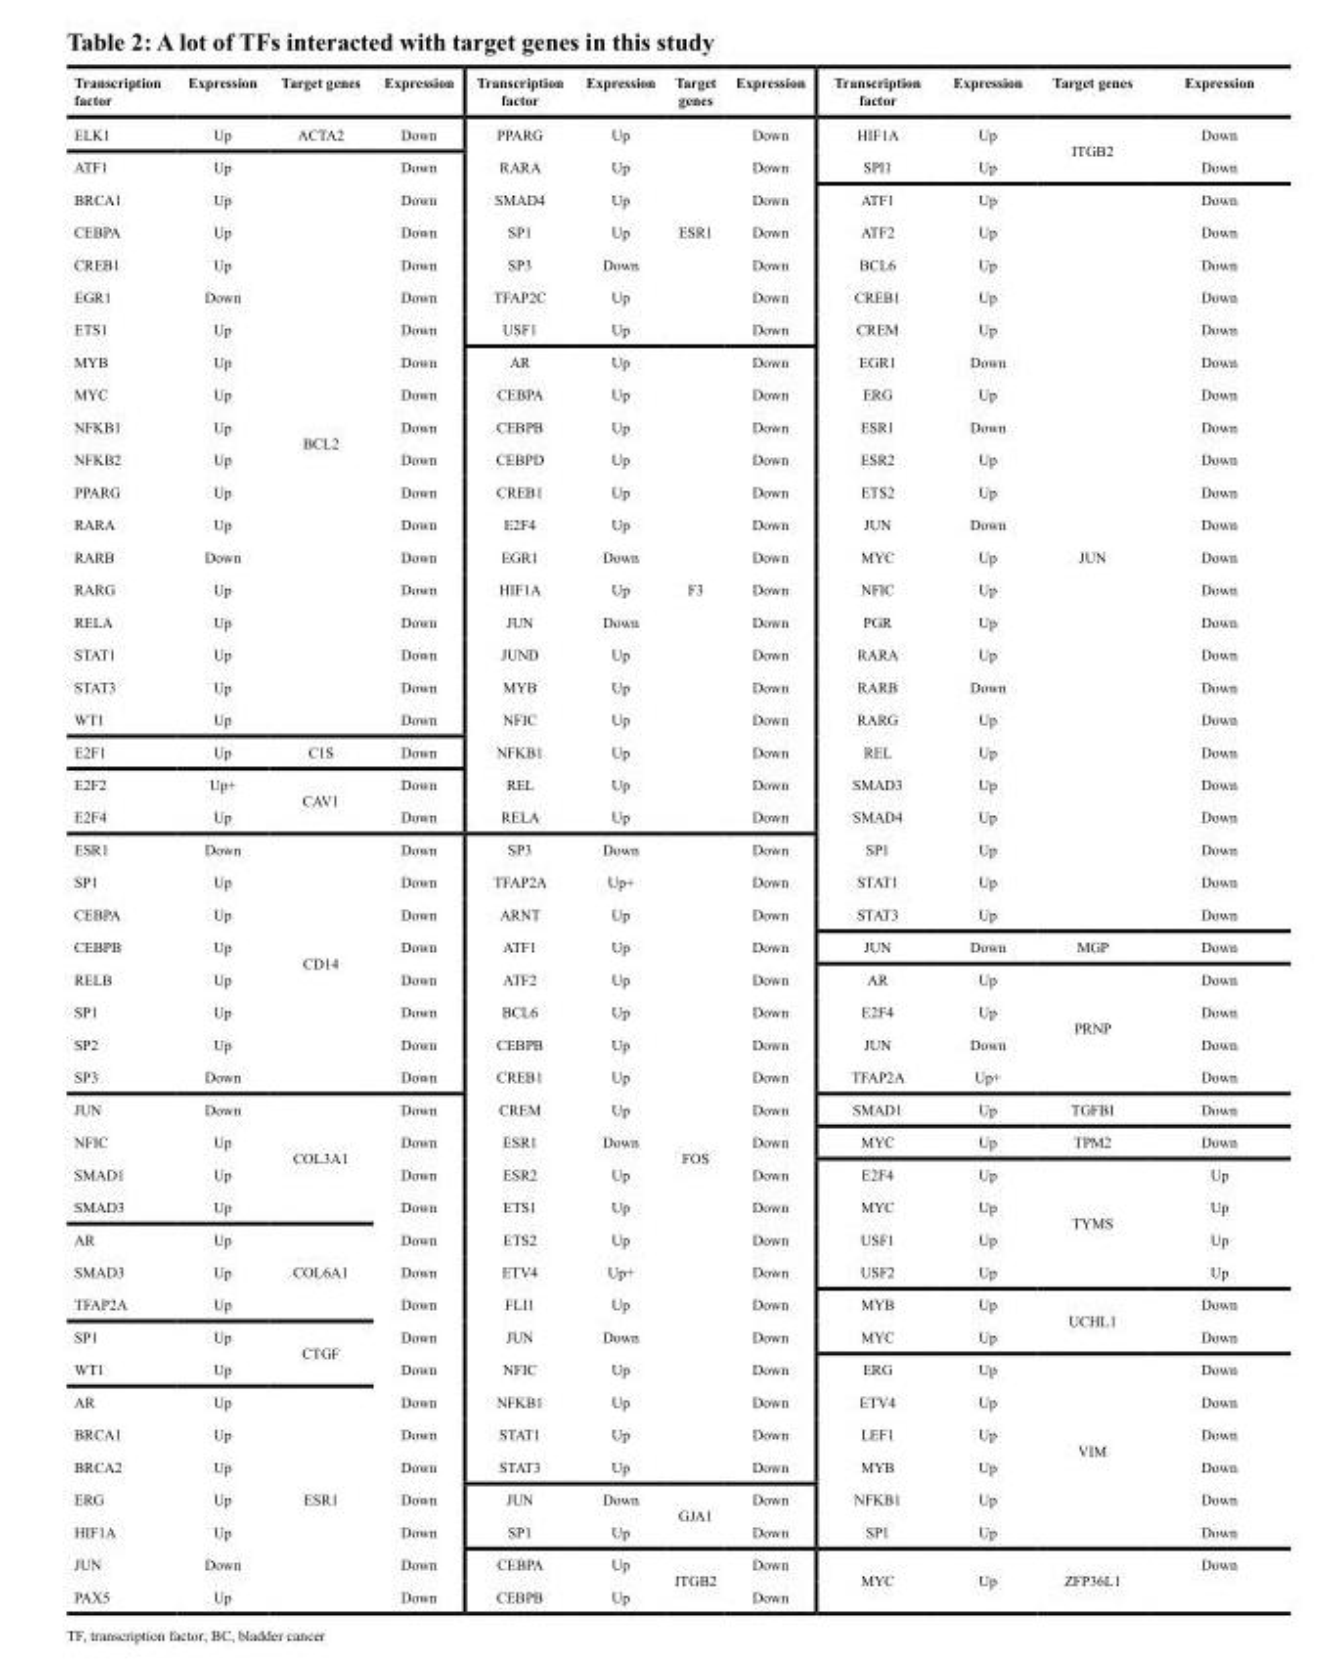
<table><thead><tr><td>Transcription factor</td><td>Expression</td><td>Target genes</td><td>Expression</td><td>Transcription factor</td><td>Expression</td><td>Target genes</td><td>Expression</td><td>Transcription factor</td><td>Expression</td><td>Target genes</td><td>Expression</td></tr></thead><tbody><tr><td>ELK1</td><td>Up</td><td>ACTA2</td><td>Down</td><td>PPARG</td><td>Up</td><td rowspan="7">ESR1</td><td>Down</td><td>HIF1A</td><td>Up</td><td rowspan="2">ITGB2</td><td>Down</td></tr><tr><td>ATF1</td><td>Up</td><td rowspan="18">BCL2</td><td>Down</td><td>RARA</td><td>Up</td><td>Down</td><td>SPI1</td><td>Up</td><td>Down</td></tr><tr><td>BRCA1</td><td>Up</td><td>Down</td><td>SMAD4</td><td>Up</td><td>Down</td><td>ATF1</td><td>Up</td><td rowspan="23">JUN</td><td>Down</td></tr><tr><td>CEBPA</td><td>Up</td><td>Down</td><td>SP1</td><td>Up</td><td>Down</td><td>ATF2</td><td>Up</td><td>Down</td></tr><tr><td>CREB1</td><td>Up</td><td>Down</td><td>SP3</td><td>Down</td><td>Down</td><td>BCL6</td><td>Up</td><td>Down</td></tr><tr><td>EGR1</td><td>Down</td><td>Down</td><td>TFAP2C</td><td>Up</td><td>Down</td><td>CREB1</td><td>Up</td><td>Down</td></tr><tr><td>ETS1</td><td>Up</td><td>Down</td><td>USF1</td><td>Up</td><td>Down</td><td>CREM</td><td>Up</td><td>Down</td></tr><tr><td>MYB</td><td>Up</td><td>Down</td><td>AR</td><td>Up</td><td rowspan="15">F3</td><td>Down</td><td>EGR1</td><td>Down</td><td>Down</td></tr><tr><td>MYC</td><td>Up</td><td>Down</td><td>CEBPA</td><td>Up</td><td>Down</td><td>ERG</td><td>Up</td><td>Down</td></tr><tr><td>NFKB1</td><td>Up</td><td>Down</td><td>CEBPB</td><td>Up</td><td>Down</td><td>ESR1</td><td>Down</td><td>Down</td></tr><tr><td>NFKB2</td><td>Up</td><td>Down</td><td>CEBPD</td><td>Up</td><td>Down</td><td>ESR2</td><td>Up</td><td>Down</td></tr><tr><td>PPARG</td><td>Up</td><td>Down</td><td>CREB1</td><td>Up</td><td>Down</td><td>ETS2</td><td>Up</td><td>Down</td></tr><tr><td>RARA</td><td>Up</td><td>Down</td><td>E2F4</td><td>Up</td><td>Down</td><td>JUN</td><td>Down</td><td>Down</td></tr><tr><td>RARB</td><td>Down</td><td>Down</td><td>EGR1</td><td>Down</td><td>Down</td><td>MYC</td><td>Up</td><td>Down</td></tr><tr><td>RARG</td><td>Up</td><td>Down</td><td>HIF1A</td><td>Up</td><td>Down</td><td>NFIC</td><td>Up</td><td>Down</td></tr><tr><td>RELA</td><td>Up</td><td>Down</td><td>JUN</td><td>Down</td><td>Down</td><td>PGR</td><td>Up</td><td>Down</td></tr><tr><td>STAT1</td><td>Up</td><td>Down</td><td>JUND</td><td>Up</td><td>Down</td><td>RARA</td><td>Up</td><td>Down</td></tr><tr><td>STAT3</td><td>Up</td><td>Down</td><td>MYB</td><td>Up</td><td>Down</td><td>RARB</td><td>Down</td><td>Down</td></tr><tr><td>WT1</td><td>Up</td><td>Down</td><td>NFIC</td><td>Up</td><td>Down</td><td>RARG</td><td>Up</td><td>Down</td></tr><tr><td>E2F1</td><td>Up</td><td>C1S</td><td>Down</td><td>NFKB1</td><td>Up</td><td>Down</td><td>REL</td><td>Up</td><td>Down</td></tr><tr><td>E2F2</td><td>Up+</td><td rowspan="2">CAV1</td><td>Down</td><td>REL</td><td>Up</td><td>Down</td><td>SMAD3</td><td>Up</td><td>Down</td></tr><tr><td>E2F4</td><td>Up</td><td>Down</td><td>RELA</td><td>Up</td><td>Down</td><td>SMAD4</td><td>Up</td><td>Down</td></tr><tr><td>ESR1</td><td>Down</td><td rowspan="8">CD14</td><td>Down</td><td>SP3</td><td>Down</td><td rowspan="20">FOS</td><td>Down</td><td>SP1</td><td>Up</td><td>Down</td></tr><tr><td>SP1</td><td>Up</td><td>Down</td><td>TFAP2A</td><td>Up+</td><td>Down</td><td>STAT1</td><td>Up</td><td>Down</td></tr><tr><td>CEBPA</td><td>Up</td><td>Down</td><td>ARNT</td><td>Up</td><td>Down</td><td>STAT3</td><td>Up</td><td>Down</td></tr><tr><td>CEBPB</td><td>Up</td><td>Down</td><td>ATF1</td><td>Up</td><td>Down</td><td>JUN</td><td>Down</td><td>MGP</td><td>Down</td></tr><tr><td>RELB</td><td>Up</td><td>Down</td><td>ATF2</td><td>Up</td><td>Down</td><td>AR</td><td>Up</td><td rowspan="4">PRNP</td><td>Down</td></tr><tr><td>SP1</td><td>Up</td><td>Down</td><td>BCL6</td><td>Up</td><td>Down</td><td>E2F4</td><td>Up</td><td>Down</td></tr><tr><td>SP2</td><td>Up</td><td>Down</td><td>CEBPB</td><td>Up</td><td>Down</td><td>JUN</td><td>Down</td><td>Down</td></tr><tr><td>SP3</td><td>Down</td><td>Down</td><td>CREB1</td><td>Up</td><td>Down</td><td>TFAP2A</td><td>Up+</td><td>Down</td></tr><tr><td>JUN</td><td>Down</td><td rowspan="4">COL3A1</td><td>Down</td><td>CREM</td><td>Up</td><td>Down</td><td>SMAD1</td><td>Up</td><td>TGFBI</td><td>Down</td></tr><tr><td>NFIC</td><td>Up</td><td>Down</td><td>ESR1</td><td>Down</td><td>Down</td><td>MYC</td><td>Up</td><td>TPM2</td><td>Down</td></tr><tr><td>SMAD1</td><td>Up</td><td>Down</td><td>ESR2</td><td>Up</td><td>Down</td><td>E2F4</td><td>Up</td><td rowspan="4">TYMS</td><td>Up</td></tr><tr><td>SMAD3</td><td>Up</td><td>Down</td><td>ETS1</td><td>Up</td><td>Down</td><td>MYC</td><td>Up</td><td>Up</td></tr><tr><td>AR</td><td>Up</td><td rowspan="3">COL6A1</td><td>Down</td><td>ETS2</td><td>Up</td><td>Down</td><td>USF1</td><td>Up</td><td>Up</td></tr><tr><td>SMAD3</td><td>Up</td><td>Down</td><td>ETV4</td><td>Up+</td><td>Down</td><td>USF2</td><td>Up</td><td>Up</td></tr><tr><td>TFAP2A</td><td>Up</td><td>Down</td><td>FLI1</td><td>Up</td><td>Down</td><td>MYB</td><td>Up</td><td rowspan="2">UCHL1</td><td>Down</td></tr><tr><td>SP1</td><td>Up</td><td rowspan="2">CTGF</td><td>Down</td><td>JUN</td><td>Down</td><td>Down</td><td>MYC</td><td>Up</td><td>Down</td></tr><tr><td>WT1</td><td>Up</td><td>Down</td><td>NFIC</td><td>Up</td><td>Down</td><td>ERG</td><td>Up</td><td rowspan="6">VIM</td><td>Down</td></tr><tr><td>AR</td><td>Up</td><td rowspan="7">ESR1</td><td>Down</td><td>NFKB1</td><td>Up</td><td>Down</td><td>ETV4</td><td>Up</td><td>Down</td></tr><tr><td>BRCA1</td><td>Up</td><td>Down</td><td>STAT1</td><td>Up</td><td>Down</td><td>LEF1</td><td>Up</td><td>Down</td></tr><tr><td>BRCA2</td><td>Up</td><td>Down</td><td>STAT3</td><td>Up</td><td>Down</td><td>MYB</td><td>Up</td><td>Down</td></tr><tr><td>ERG</td><td>Up</td><td>Down</td><td>JUN</td><td>Down</td><td rowspan="2">GJA1</td><td>Down</td><td>NFKB1</td><td>Up</td><td>Down</td></tr><tr><td>HIF1A</td><td>Up</td><td>Down</td><td>SP1</td><td>Up</td><td>Down</td><td>SP1</td><td>Up</td><td>Down</td></tr><tr><td>JUN</td><td>Down</td><td>Down</td><td>CEBPA</td><td>Up</td><td rowspan="2">ITGB2</td><td>Down</td><td rowspan="2">MYC</td><td rowspan="2">Up</td><td rowspan="2">ZFP36L1</td><td>Down</td></tr><tr><td>PAX5</td><td>Up</td><td>Down</td><td>CEBPB</td><td>Up</td><td>Down</td><td></td></tr></tbody></table>